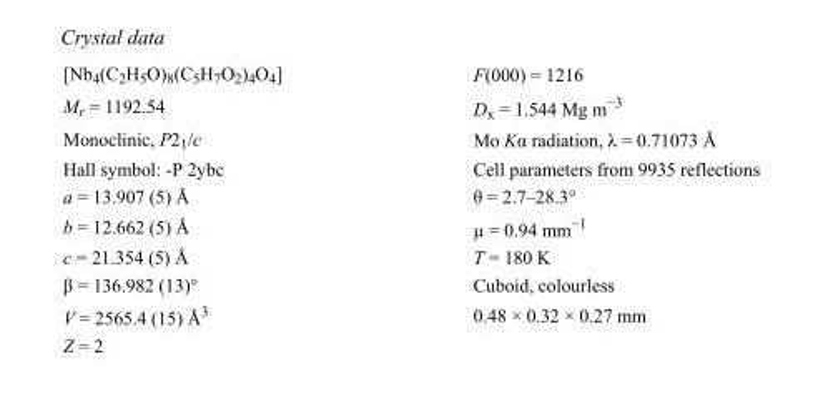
<table><tbody><tr><td>[Nb<sub>4</sub>(C<sub>2</sub>H<sub>5</sub>O)<sub>8</sub>(C<sub>5</sub>H<sub>7</sub>O<sub>2</sub>)<sub>4</sub>O<sub>4</sub>]</td><td>F(000) = 1216</td></tr><tr><td>M<sub>r</sub> = 1192.54</td><td>D<sub>x</sub> = 1.544 Mg m<sup>−3</sup></td></tr><tr><td>Monoclinic, P2<sub>1</sub>/c</td><td>Mo Kα radiation, λ = 0.71073 Å</td></tr><tr><td>Hall symbol: -P 2ybc</td><td>Cell parameters from 9935 reflections</td></tr><tr><td>a = 13.907 (5) Å</td><td>θ = 2.7–28.3°</td></tr><tr><td>b = 12.662 (5) Å</td><td>µ = 0.94 mm<sup>−1</sup></td></tr><tr><td>c = 21.354 (5) Å</td><td>T = 180 K</td></tr><tr><td>β = 136.982 (13)°</td><td>Cuboid, colourless</td></tr><tr><td>V = 2565.4 (15) Å<sup>3</sup></td><td>0.48 × 0.32 × 0.27 mm</td></tr><tr><td>Z = 2</td><td></td></tr></tbody></table>